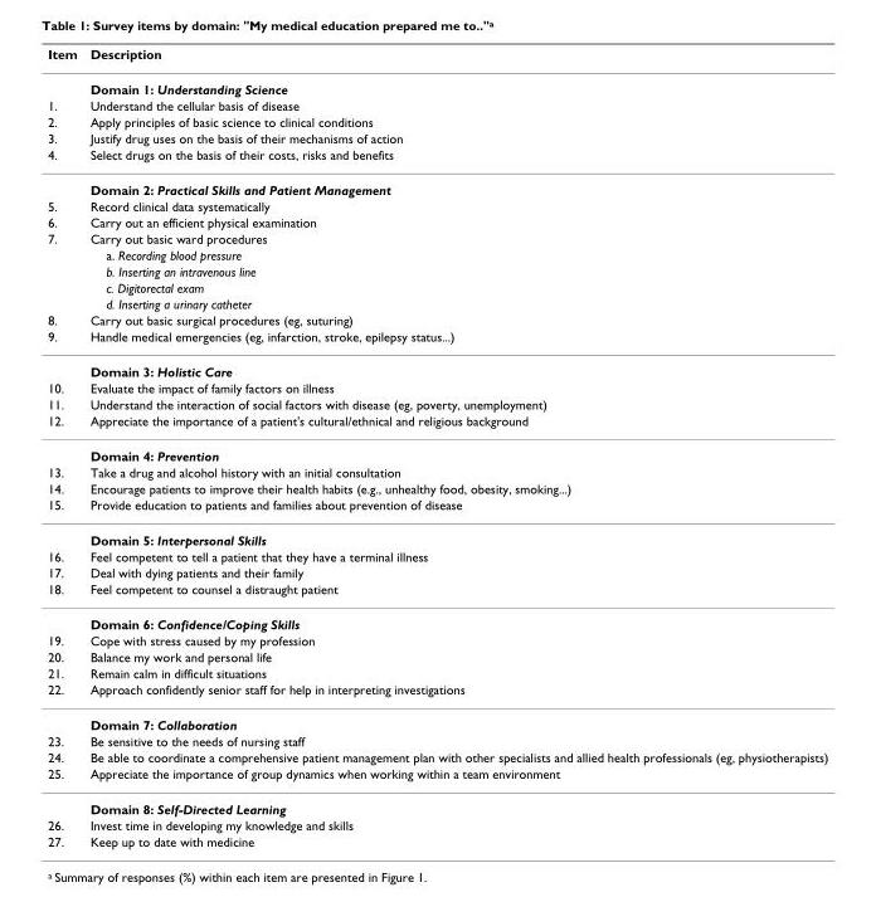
<table><thead><tr><td>Item</td><td>Description</td></tr></thead><tbody><tr><td></td><td>Domain 1: Understanding Science</td></tr><tr><td>1.</td><td>Understand the cellular basis of disease</td></tr><tr><td>2.</td><td>Apply principles of basic science to clinical conditions</td></tr><tr><td>3.</td><td>Justify drug uses on the basis of their mechanisms of action</td></tr><tr><td rowspan="2">4.</td><td>Select drugs on the basis of their costs, risks and benefits</td></tr><tr><td>Domain 2: Practical Skills and Patient Management</td></tr><tr><td>5.</td><td>Record clinical data systematically</td></tr><tr><td>6.</td><td>Carry out an efficient physical examination</td></tr><tr><td rowspan="5">7.</td><td>Carry out basic ward procedures</td></tr><tr><td>a. Recording blood pressure</td></tr><tr><td>b. Inserting an intravenous line</td></tr><tr><td>c. Digitorectal exam</td></tr><tr><td>d. Inserting a urinary catheter</td></tr><tr><td>8.</td><td>Carry out basic surgical procedures (eg, suturing)</td></tr><tr><td rowspan="2">9.</td><td>Handle medical emergencies (eg, infarction, stroke, epilepsy status...)</td></tr><tr><td>Domain 3: Holistic Care</td></tr><tr><td>10.</td><td>Evaluate the impact of family factors on illness</td></tr><tr><td>11.</td><td>Understand the interaction of social factors with disease (eg, poverty, unemployment)</td></tr><tr><td rowspan="2">12.</td><td>Appreciate the importance of a patient&#x27;s cultural/ethnical and religious background</td></tr><tr><td>Domain 4: Prevention</td></tr><tr><td>13.</td><td>Take a drug and alcohol history with an initial consultation</td></tr><tr><td>14.</td><td>Encourage patients to improve their health habits (e.g., unhealthy food, obesity, smoking...)</td></tr><tr><td rowspan="2">15.</td><td>Provide education to patients and families about prevention of disease</td></tr><tr><td>Domain 5: Interpersonal Skills</td></tr><tr><td>16.</td><td>Feel competent to tell a patient that they have a terminal illness</td></tr><tr><td>17.</td><td>Deal with dying patients and their family</td></tr><tr><td rowspan="2">18.</td><td>Feel competent to counsel a distraught patient</td></tr><tr><td>Domain 6: Confidence/Coping Skills</td></tr><tr><td>19.</td><td>Cope with stress caused by my profession</td></tr><tr><td>20.</td><td>Balance my work and personal life</td></tr><tr><td>21.</td><td>Remain calm in difficult situations</td></tr><tr><td rowspan="2">22.</td><td>Approach confidently senior staff for help in interpreting investigations</td></tr><tr><td>Domain 7: Collaboration</td></tr><tr><td>23.</td><td>Be sensitive to the needs of nursing staff</td></tr><tr><td>24.</td><td>Be able to coordinate a comprehensive patient management plan with other specialists and allied health professionals (eg, physiotherapists)</td></tr><tr><td rowspan="2">25.</td><td>Appreciate the importance of group dynamics when working within a team environment</td></tr><tr><td>Domain 8: Self-Directed Learning</td></tr><tr><td>26.</td><td>Invest time in developing my knowledge and skills</td></tr><tr><td>27.</td><td>Keep up to date with medicine</td></tr></tbody></table>